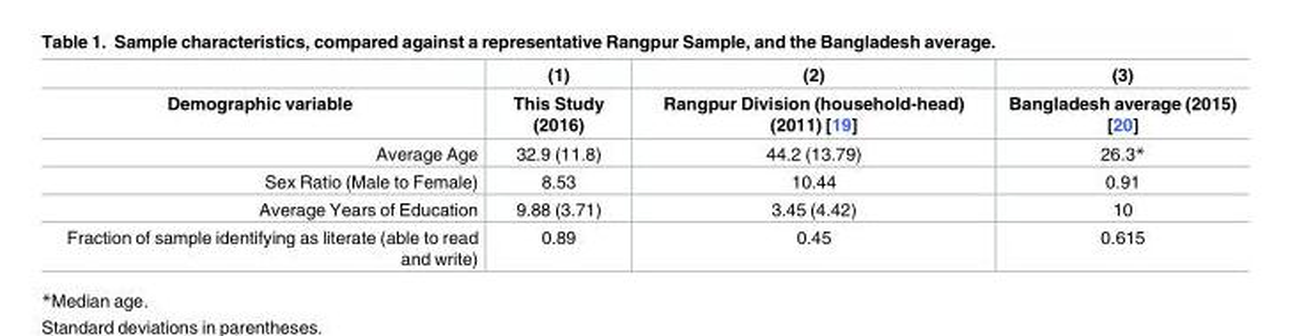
<table><thead><tr><td rowspan="2">Demographic variable</td><td rowspan="2">(1) This Study (2016)</td><td rowspan="2">(2) Rangpur Division (household-head) (2011) [19]</td><td rowspan="2">(3) Bangladesh average (2015) [20]</td></tr><tr></tr></thead><tbody><tr><td>Average Age</td><td>32.9 (11.8)</td><td>44.2 (13.79)</td><td>26.3*</td></tr><tr><td>Sex Ratio (Male to Female)</td><td>8.53</td><td>10.44</td><td>0.91</td></tr><tr><td>Average Years of Education</td><td>9.88 (3.71)</td><td>3.45 (4.42)</td><td>10</td></tr><tr><td>Fraction of sample identifying as literate (able to read and write)</td><td>0.89</td><td>0.45</td><td>0.615</td></tr></tbody></table>